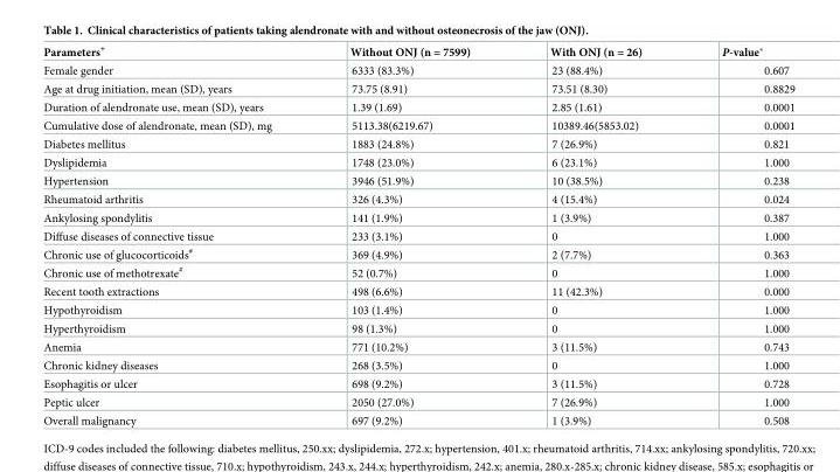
<table><thead><tr><td>Parameters<sup>+</sup></td><td>Without ONJ (n = 7599)</td><td>With ONJ (n = 26)</td><td>P-value*</td></tr></thead><tbody><tr><td>Female gender</td><td>6333 (83.3%)</td><td>23 (88.4%)</td><td>0.607</td></tr><tr><td>Age at drug initiation, mean (SD), years</td><td>73.75 (8.91)</td><td>73.51 (8.30)</td><td>0.8829</td></tr><tr><td>Duration of alendronate use, mean (SD), years</td><td>1.39 (1.69)</td><td>2.85 (1.61)</td><td>0.0001</td></tr><tr><td>Cumulative dose of alendronate, mean (SD), mg</td><td>5113.38(6219.67)</td><td>10389.46(5853.02)</td><td>0.0001</td></tr><tr><td>Diabetes mellitus</td><td>1883 (24.8%)</td><td>7 (26.9%)</td><td>0.821</td></tr><tr><td>Dyslipidemia</td><td>1748 (23.0%)</td><td>6 (23.1%)</td><td>1.000</td></tr><tr><td>Hypertension</td><td>3946 (51.9%)</td><td>10 (38.5%)</td><td>0.238</td></tr><tr><td>Rheumatoid arthritis</td><td>326 (4.3%)</td><td>4 (15.4%)</td><td>0.024</td></tr><tr><td>Ankylosing spondylitis</td><td>141 (1.9%)</td><td>1 (3.9%)</td><td>0.387</td></tr><tr><td>Diffuse diseases of connective tissue</td><td>233 (3.1%)</td><td>0</td><td>1.000</td></tr><tr><td>Chronic use of glucocorticoids<sup>#</sup></td><td>369 (4.9%)</td><td>2 (7.7%)</td><td>0.363</td></tr><tr><td>Chronic use of methotrexate<sup>#</sup></td><td>52 (0.7%)</td><td>0</td><td>1.000</td></tr><tr><td>Recent tooth extractions</td><td>498 (6.6%)</td><td>11 (42.3%)</td><td>0.000</td></tr><tr><td>Hypothyroidism</td><td>103 (1.4%)</td><td>0</td><td>1.000</td></tr><tr><td>Hyperthyroidism</td><td>98 (1.3%)</td><td>0</td><td>1.000</td></tr><tr><td>Anemia</td><td>771 (10.2%)</td><td>3 (11.5%)</td><td>0.743</td></tr><tr><td>Chronic kidney diseases</td><td>268 (3.5%)</td><td>0</td><td>1.000</td></tr><tr><td>Esophagitis or ulcer</td><td>698 (9.2%)</td><td>3 (11.5%)</td><td>0.728</td></tr><tr><td>Peptic ulcer</td><td>2050 (27.0%)</td><td>7 (26.9%)</td><td>1.000</td></tr><tr><td>Overall malignancy</td><td>697 (9.2%)</td><td>1 (3.9%)</td><td>0.508</td></tr></tbody></table>